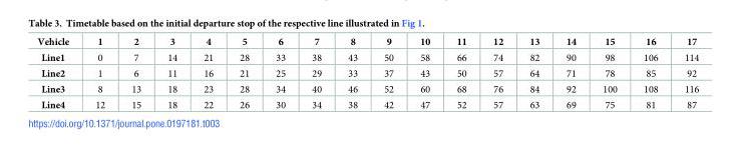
<table><thead><tr><td>Vehicle</td><td>1</td><td>2</td><td>3</td><td>4</td><td>5</td><td>6</td><td>7</td><td>8</td><td>9</td><td>10</td><td>11</td><td>12</td><td>13</td><td>14</td><td>15</td><td>16</td><td>17</td></tr></thead><tbody><tr><td>Line1</td><td>0</td><td>7</td><td>14</td><td>21</td><td>28</td><td>33</td><td>38</td><td>43</td><td>50</td><td>58</td><td>66</td><td>74</td><td>82</td><td>90</td><td>98</td><td>106</td><td>114</td></tr><tr><td>Line2</td><td>1</td><td>6</td><td>11</td><td>16</td><td>21</td><td>25</td><td>29</td><td>33</td><td>37</td><td>43</td><td>50</td><td>57</td><td>64</td><td>71</td><td>78</td><td>85</td><td>92</td></tr><tr><td>Line3</td><td>8</td><td>13</td><td>18</td><td>23</td><td>28</td><td>34</td><td>40</td><td>46</td><td>52</td><td>60</td><td>68</td><td>76</td><td>84</td><td>92</td><td>100</td><td>108</td><td>116</td></tr><tr><td>Line4</td><td>12</td><td>15</td><td>18</td><td>22</td><td>26</td><td>30</td><td>34</td><td>38</td><td>42</td><td>47</td><td>52</td><td>57</td><td>63</td><td>69</td><td>75</td><td>81</td><td>87</td></tr></tbody></table>